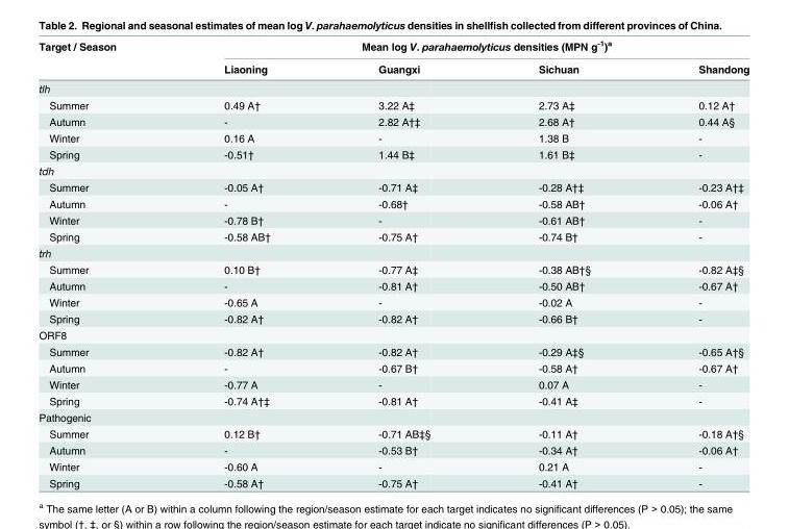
<table><thead><tr><td rowspan="2">Target / Season</td><td colspan="4">Mean log V. parahaemolyticus densities (MPN g<sup>-1</sup>)<sup>a</sup></td></tr><tr><td>Liaoning</td><td>Guangxi</td><td>Sichuan</td><td>Shandong</td></tr></thead><tbody><tr><td colspan="5">tlh</td></tr><tr><td>Summer</td><td>0.49 A†</td><td>3.22 A‡</td><td>2.73 A‡</td><td>0.12 A†</td></tr><tr><td>Autumn</td><td>-</td><td>2.82 A†‡</td><td>2.68 A†</td><td>0.44 A§</td></tr><tr><td>Winter</td><td>0.16 A</td><td>-</td><td>1.38 B</td><td>-</td></tr><tr><td>Spring</td><td>-0.51†</td><td>1.44 B‡</td><td>1.61 B‡</td><td>-</td></tr><tr><td colspan="5">tdh</td></tr><tr><td>Summer</td><td>-0.05 A†</td><td>-0.71 A‡</td><td>-0.28 A†‡</td><td>-0.23 A†‡</td></tr><tr><td>Autumn</td><td>-</td><td>-0.68†</td><td>-0.58 AB†</td><td>-0.06 A†</td></tr><tr><td>Winter</td><td>-0.78 B†</td><td>-</td><td>-0.61 AB†</td><td>-</td></tr><tr><td>Spring</td><td>-0.58 AB†</td><td>-0.75 A†</td><td>-0.74 B†</td><td>-</td></tr><tr><td colspan="5">trh</td></tr><tr><td>Summer</td><td>0.10 B†</td><td>-0.77 A‡</td><td>-0.38 AB†§</td><td>-0.82 A‡§</td></tr><tr><td>Autumn</td><td>-</td><td>-0.81 A†</td><td>-0.50 AB†</td><td>-0.67 A†</td></tr><tr><td>Winter</td><td>-0.65 A</td><td>-</td><td>-0.02 A</td><td>-</td></tr><tr><td>Spring</td><td>-0.82 A†</td><td>-0.82 A†</td><td>-0.66 B†</td><td>-</td></tr><tr><td colspan="5">ORF8</td></tr><tr><td>Summer</td><td>-0.82 A†</td><td>-0.82 A†</td><td>-0.29 A‡§</td><td>-0.65 A†§</td></tr><tr><td>Autumn</td><td>-</td><td>-0.67 B†</td><td>-0.58 A†</td><td>-0.67 A†</td></tr><tr><td>Winter</td><td>-0.77 A</td><td>-</td><td>0.07 A</td><td>-</td></tr><tr><td>Spring</td><td>-0.74 A†‡</td><td>-0.81 A†</td><td>-0.41 A‡</td><td>-</td></tr><tr><td colspan="5">Pathogenic</td></tr><tr><td>Summer</td><td>0.12 B†</td><td>-0.71 AB‡§</td><td>-0.11 A†</td><td>-0.18 A†§</td></tr><tr><td>Autumn</td><td>-</td><td>-0.53 B†</td><td>-0.34 A†</td><td>-0.06 A†</td></tr><tr><td>Winter</td><td>-0.60 A</td><td>-</td><td>0.21 A</td><td>-</td></tr><tr><td>Spring</td><td>-0.58 A†</td><td>-0.75 A†</td><td>-0.41 A†</td><td>-</td></tr></tbody></table>